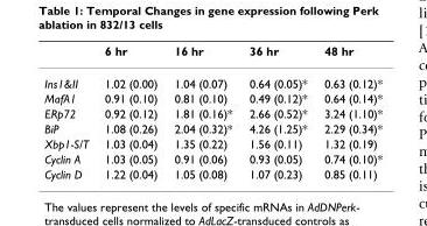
<table><thead><tr><td></td><td>6 hr</td><td>16 hr</td><td>36 hr</td><td>48 hr</td></tr></thead><tbody><tr><td>Ins1&amp;II</td><td>1.02 (0.00)</td><td>1.04 (0.07)</td><td>0.64 (0.05)*</td><td>0.63 (0.12)*</td></tr><tr><td>MafA1</td><td>0.91 (0.10)</td><td>0.81 (0.10)</td><td>0.49 (0.12)*</td><td>0.64 (0.14)*</td></tr><tr><td>ERp72</td><td>0.92 (0.12)</td><td>1.81 (0.16)*</td><td>2.66 (0.52)*</td><td>3.24 (1.10)*</td></tr><tr><td>BiP</td><td>1.08 (0.26)</td><td>2.04 (0.32)*</td><td>4.26 (1.25)*</td><td>2.29 (0.34)*</td></tr><tr><td>Xbp1-S/T</td><td>1.03 (0.04)</td><td>1.35 (0.22)</td><td>1.56 (0.11)</td><td>1.32 (0.19)</td></tr><tr><td>Cyclin A</td><td>1.03 (0.05)</td><td>0.91 (0.06)</td><td>0.93 (0.05)</td><td>0.74 (0.10)*</td></tr><tr><td>Cyclin D</td><td>1.22 (0.04)</td><td>1.05 (0.08)</td><td>1.07 (0.23)</td><td>0.85 (0.11)</td></tr></tbody></table>